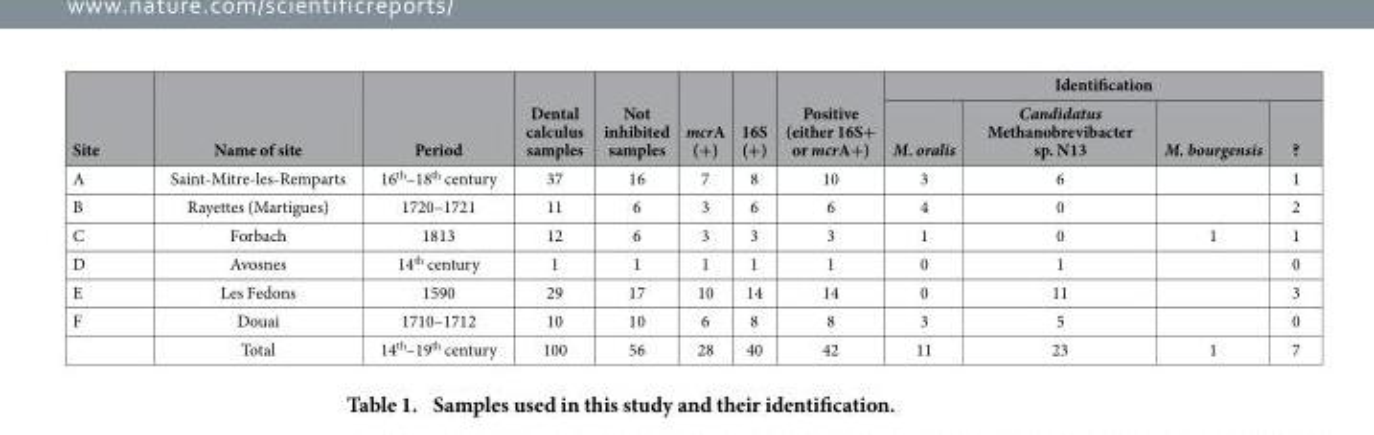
<table><thead><tr><td rowspan="2">Site</td><td rowspan="2">Name of site</td><td rowspan="2">Period</td><td rowspan="2">Dental calculus samples</td><td rowspan="2">Not inhibited samples</td><td rowspan="2">mcrA (+)</td><td rowspan="2">16S (+)</td><td rowspan="2">Positive (either 16S+ or mcrA+)</td><td colspan="4">Identification</td></tr><tr><td>M. oralis</td><td>Candidatus Methanobrevibacter sp. N13</td><td>M. bourgensis</td><td>?</td></tr></thead><tbody><tr><td>A</td><td>Saint-Mitre-les-Remparts</td><td>16<sup>th</sup>–18<sup>th</sup> century</td><td>37</td><td>16</td><td>7</td><td>8</td><td>10</td><td>3</td><td>6</td><td></td><td>1</td></tr><tr><td>B</td><td>Rayettes (Martigues)</td><td>1720–1721</td><td>11</td><td>6</td><td>3</td><td>6</td><td>6</td><td>4</td><td>0</td><td></td><td>2</td></tr><tr><td>C</td><td>Forbach</td><td>1813</td><td>12</td><td>6</td><td>3</td><td>3</td><td>3</td><td>1</td><td>0</td><td>1</td><td>1</td></tr><tr><td>D</td><td>Avosnes</td><td>14<sup>th</sup> century</td><td>1</td><td>1</td><td>1</td><td>1</td><td>1</td><td>0</td><td>1</td><td></td><td>0</td></tr><tr><td>E</td><td>Les Fedons</td><td>1590</td><td>29</td><td>17</td><td>10</td><td>14</td><td>14</td><td>0</td><td>11</td><td></td><td>3</td></tr><tr><td rowspan="2">F</td><td>Douai</td><td>1710–1712</td><td>10</td><td>10</td><td>6</td><td>8</td><td>8</td><td>3</td><td>5</td><td></td><td>0</td></tr><tr><td>Total</td><td>14<sup>th</sup>–19<sup>th</sup> century</td><td>100</td><td>56</td><td>28</td><td>40</td><td>42</td><td>11</td><td>23</td><td>1</td><td>7</td></tr></tbody></table>